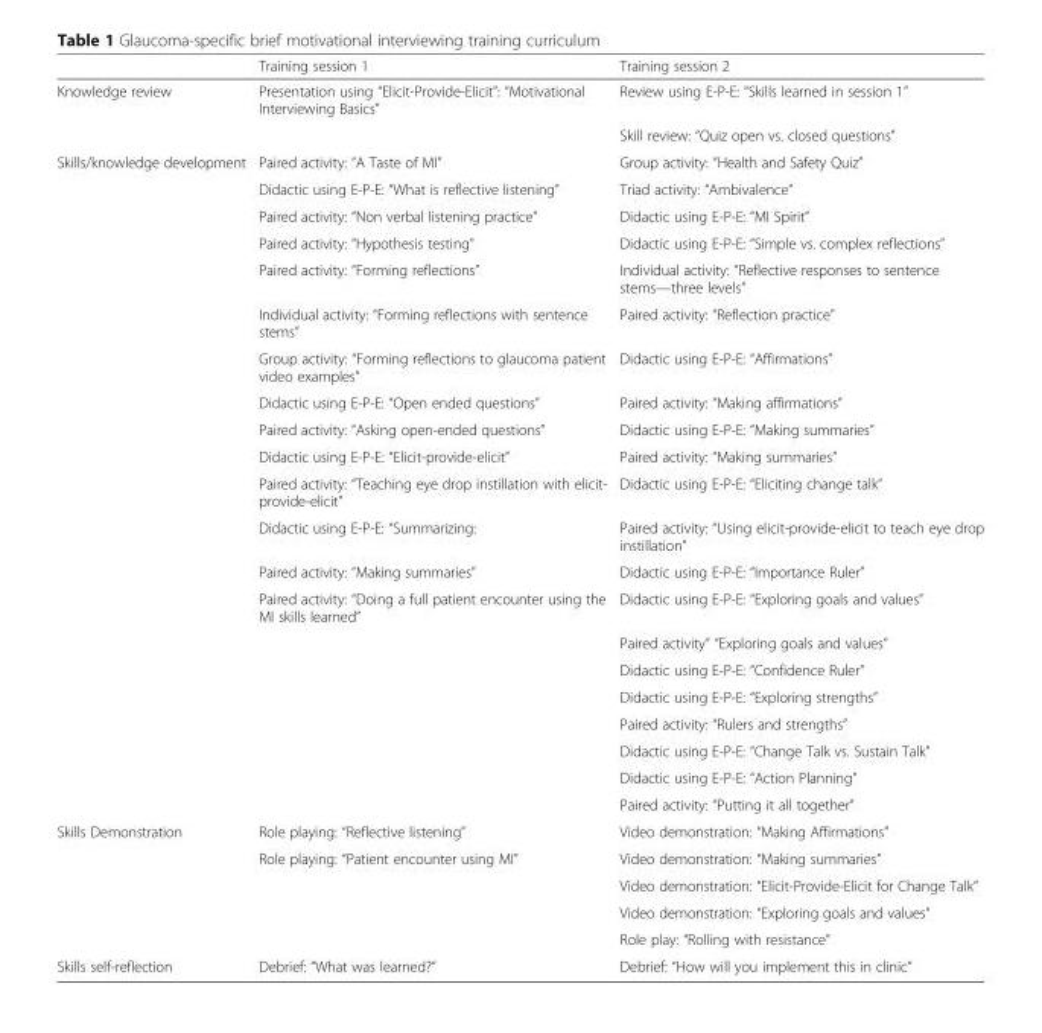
<table><thead><tr><td></td><td>Training session 1</td><td>Training session 2</td></tr></thead><tbody><tr><td rowspan="2">Knowledge review</td><td>Presentation using “Elicit-Provide-Elicit”: “Motivational Interviewing Basics”</td><td>Review using E-P-E: “Skills learned in session 1”</td></tr><tr><td></td><td>Skill review: “Quiz open vs. closed questions”</td></tr><tr><td rowspan="21">Skills/knowledge development</td><td>Paired activity: “A Taste of MI”</td><td>Group activity: “Health and Safety Quiz”</td></tr><tr><td>Didactic using E-P-E: “What is reflective listening”</td><td>Triad activity: “Ambivalence”</td></tr><tr><td>Paired activity: “Non verbal listening practice”</td><td>Didactic using E-P-E: “MI Spirit”</td></tr><tr><td>Paired activity: “Hypothesis testing”</td><td>Didactic using E-P-E: “Simple vs. complex reflections”</td></tr><tr><td>Paired activity: “Forming reflections”</td><td>Individual activity: “Reflective responses to sentence stems—three levels”</td></tr><tr><td>Individual activity: “Forming reflections with sentence stems”</td><td>Paired activity: “Reflection practice”</td></tr><tr><td>Group activity: “Forming reflections to glaucoma patient video examples”</td><td>Didactic using E-P-E: “Affirmations”</td></tr><tr><td>Didactic using E-P-E: “Open ended questions”</td><td>Paired activity: “Making affirmations”</td></tr><tr><td>Paired activity: “Asking open-ended questions”</td><td>Didactic using E-P-E: “Making summaries”</td></tr><tr><td>Didactic using E-P-E: “Elicit-provide-elicit”</td><td>Paired activity: “Making summaries”</td></tr><tr><td>Paired activity: “Teaching eye drop instillation with elicit- provide-elicit”</td><td>Didactic using E-P-E: “Eliciting change talk”</td></tr><tr><td>Didactic using E-P-E: “Summarizing:</td><td>Paired activity: “Using elicit-provide-elicit to teach eye drop instillation”</td></tr><tr><td>Paired activity: “Making summaries”</td><td>Didactic using E-P-E: “Importance Ruler”</td></tr><tr><td>Paired activity: “Doing a full patient encounter using the MI skills learned”</td><td>Didactic using E-P-E: “Exploring goals and values”</td></tr><tr><td></td><td>Paired activity” “Exploring goals and values”</td></tr><tr><td></td><td>Didactic using E-P-E: “Confidence Ruler”</td></tr><tr><td></td><td>Didactic using E-P-E: “Exploring strengths”</td></tr><tr><td></td><td>Paired activity: “Rulers and strengths”</td></tr><tr><td></td><td>Didactic using E-P-E: “Change Talk vs. Sustain Talk”</td></tr><tr><td></td><td>Didactic using E-P-E: “Action Planning”</td></tr><tr><td></td><td>Paired activity: “Putting it all together”</td></tr><tr><td rowspan="5">Skills Demonstration</td><td>Role playing: “Reflective listening”</td><td>Video demonstration: “Making Affirmations”</td></tr><tr><td>Role playing: “Patient encounter using MI”</td><td>Video demonstration: “Making summaries”</td></tr><tr><td></td><td>Video demonstration: “Elicit-Provide-Elicit for Change Talk”</td></tr><tr><td></td><td>Video demonstration: “Exploring goals and values”</td></tr><tr><td></td><td>Role play: “Rolling with resistance”</td></tr><tr><td>Skills self-reflection</td><td>Debrief: “What was learned?”</td><td>Debrief: “How will you implement this in clinic”</td></tr></tbody></table>